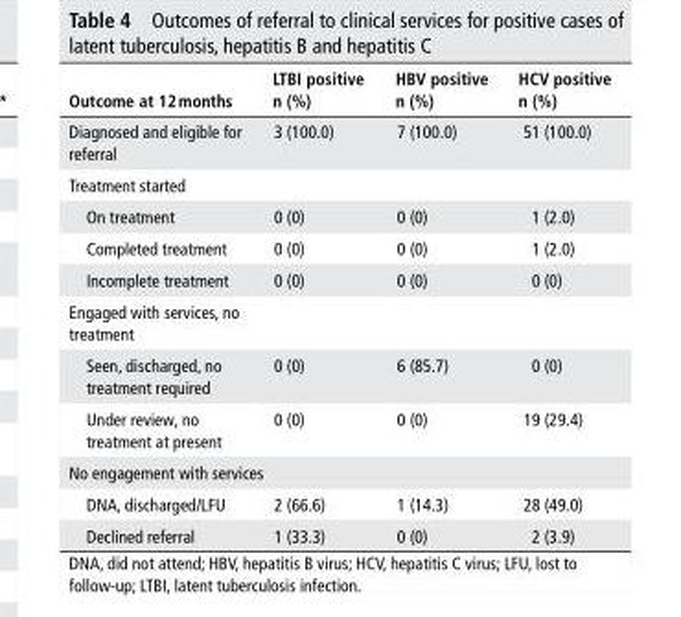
<table><thead><tr><td>outcome at 12 months</td><td>LTbI positive n (%)</td><td>hbV positive n (%)</td><td>hCV positive n (%)</td></tr></thead><tbody><tr><td>Diagnosed and eligible for referral</td><td>3 (100.0)</td><td>7 (100.0)</td><td>51 (100.0)</td></tr><tr><td colspan="4">Treatment started</td></tr><tr><td>On treatment</td><td>0 (0)</td><td>0 (0)</td><td>1 (2.0)</td></tr><tr><td>Completed treatment</td><td>0 (0)</td><td>0 (0)</td><td>1 (2.0)</td></tr><tr><td>Incomplete treatment</td><td>0 (0)</td><td>0 (0)</td><td>0 (0)</td></tr><tr><td colspan="4">Engaged with services, no treatment</td></tr><tr><td>Seen, discharged, no treatment required</td><td>0 (0)</td><td>6 (85.7)</td><td>0 (0)</td></tr><tr><td>Under review, no treatment at present</td><td>0 (0)</td><td>0 (0)</td><td>19 (29.4)</td></tr><tr><td colspan="4">No engagement with services</td></tr><tr><td>DNA, discharged/LFU</td><td>2 (66.6)</td><td>1 (14.3)</td><td>28 (49.0)</td></tr><tr><td>Declined referral</td><td>1 (33.3)</td><td>0 (0)</td><td>2 (3.9)</td></tr></tbody></table>